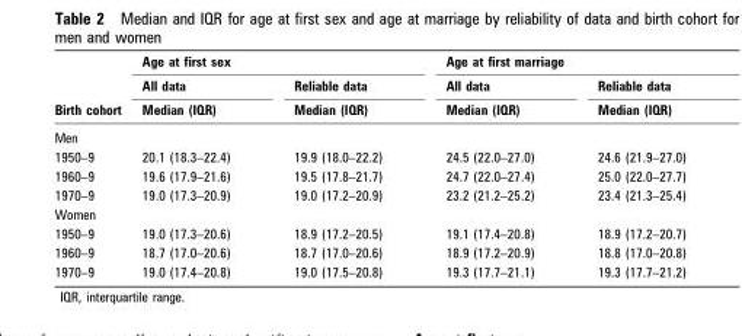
<table><thead><tr><td rowspan="3">Birth cohort</td><td colspan="2">Age at first sex</td><td colspan="2">Age at first marriage</td></tr><tr><td rowspan="2">All data Median (IQR)</td><td rowspan="2">Reliable data Median (IQR)</td><td rowspan="2">All data Median (IQR)</td><td rowspan="2">Reliable data Median (IQR)</td></tr><tr></tr></thead><tbody><tr><td colspan="5">Men</td></tr><tr><td>1950–9</td><td>20.1 (18.3–22.4)</td><td>19.9 (18.0–22.2)</td><td>24.5 (22.0–27.0)</td><td>24.6 (21.9–27.0)</td></tr><tr><td>1960–9</td><td>19.6 (17.9–21.6)</td><td>19.5 (17.8–21.7)</td><td>24.7 (22.0–27.4)</td><td>25.0 (22.0–27.7)</td></tr><tr><td>1970–9</td><td>19.0 (17.3–20.9)</td><td>19.0 (17.2–20.9)</td><td>23.2 (21.2–25.2)</td><td>23.4 (21.3–25.4)</td></tr><tr><td colspan="5">Women</td></tr><tr><td>1950–9</td><td>19.0 (17.3–20.6)</td><td>18.9 (17.2–20.5)</td><td>19.1 (17.4–20.8)</td><td>18.9 (17.2–20.7)</td></tr><tr><td>1960–9</td><td>18.7 (17.0–20.6)</td><td>18.7 (17.0–20.6)</td><td>18.9 (17.2–20.9)</td><td>18.8 (17.0–20.8)</td></tr><tr><td>1970–9</td><td>19.0 (17.4–20.8)</td><td>19.0 (17.5–20.8)</td><td>19.3 (17.7–21.1)</td><td>19.3 (17.7–21.2)</td></tr></tbody></table>